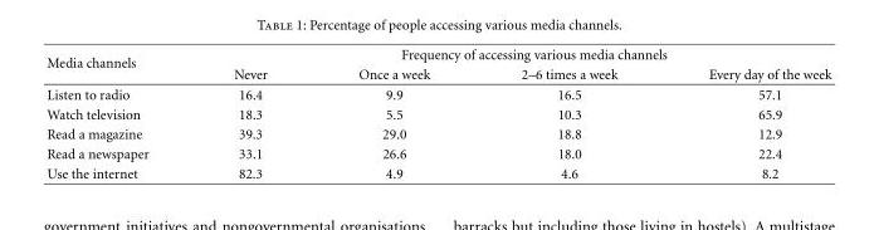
<table><thead><tr><td rowspan="2">Media channels</td><td colspan="4">Frequency of accessing various media channels</td></tr><tr><td>Never</td><td>Once a week</td><td>2–6 times a week</td><td>Every day of the week</td></tr></thead><tbody><tr><td>Listen to radio</td><td>16.4</td><td>9.9</td><td>16.5</td><td>57.1</td></tr><tr><td>Watch television</td><td>18.3</td><td>5.5</td><td>10.3</td><td>65.9</td></tr><tr><td>Read a magazine</td><td>39.3</td><td>29.0</td><td>18.8</td><td>12.9</td></tr><tr><td>Read a newspaper</td><td>33.1</td><td>26.6</td><td>18.0</td><td>22.4</td></tr><tr><td>Use the internet</td><td>82.3</td><td>4.9</td><td>4.6</td><td>8.2</td></tr></tbody></table>